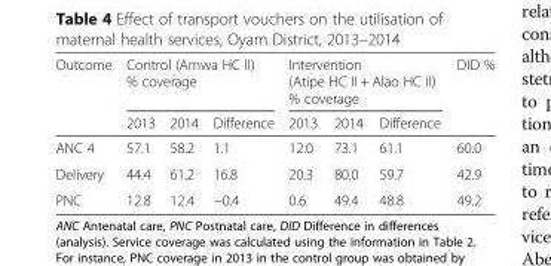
<table><thead><tr><td rowspan="2">Outcome</td><td colspan="3">Control (Amwa HC II) % coverage</td><td colspan="3">Intervention (Atipe HC II + Alao HC II) % coverage</td><td rowspan="2">DID %</td></tr><tr><td>2013</td><td>2014</td><td>Difference</td><td>2013</td><td>2014</td><td>Difference</td></tr></thead><tbody><tr><td>ANC 4</td><td>57.1</td><td>58.2</td><td>1.1</td><td>12.0</td><td>73.1</td><td>61.1</td><td>60.0</td></tr><tr><td>Delivery</td><td>44.4</td><td>61.2</td><td>16.8</td><td>20.3</td><td>80.0</td><td>59.7</td><td>42.9</td></tr><tr><td>PNC</td><td>12.8</td><td>12.4</td><td>−0.4</td><td>0.6</td><td>49.4</td><td>48.8</td><td>49.2</td></tr></tbody></table>